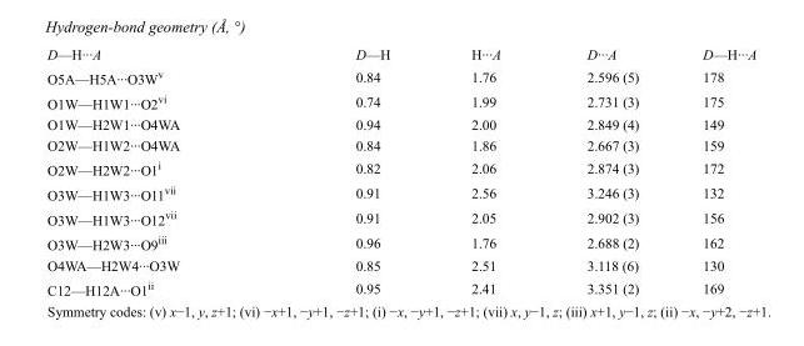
<table><tbody><tr><td>D—H···A</td><td>D—H</td><td>H···A</td><td>D···A</td><td>D—H···A</td></tr><tr><td>O5A—H5A···O3W<sup>v</sup></td><td>0.84</td><td>1.76</td><td>2.596 (5)</td><td>178</td></tr><tr><td>O1W—H1W1···O2<sup>vi</sup></td><td>0.74</td><td>1.99</td><td>2.731 (3)</td><td>175</td></tr><tr><td>O1W—H2W1···O4WA</td><td>0.94</td><td>2.00</td><td>2.849 (4)</td><td>149</td></tr><tr><td>O2W—H1W2···O4WA</td><td>0.84</td><td>1.86</td><td>2.667 (3)</td><td>159</td></tr><tr><td>O2W—H2W2···O1<sup>i</sup></td><td>0.82</td><td>2.06</td><td>2.874 (3)</td><td>172</td></tr><tr><td>O3W—H1W3···O11<sup>vii</sup></td><td>0.91</td><td>2.56</td><td>3.246 (3)</td><td>132</td></tr><tr><td>O3W—H1W3···O12<sup>vii</sup></td><td>0.91</td><td>2.05</td><td>2.902 (3)</td><td>156</td></tr><tr><td>O3W—H2W3···O9<sup>iii</sup></td><td>0.96</td><td>1.76</td><td>2.688 (2)</td><td>162</td></tr><tr><td>O4WA—H2W4···O3W</td><td>0.85</td><td>2.51</td><td>3.118 (6)</td><td>130</td></tr><tr><td>C12—H12A···O1<sup>ii</sup></td><td>0.95</td><td>2.41</td><td>3.351 (2)</td><td>169</td></tr></tbody></table>